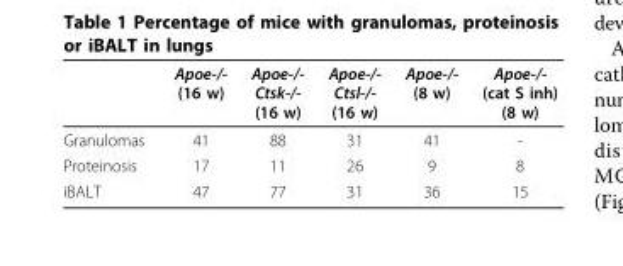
<table><thead><tr><td></td><td>Apoe-/- (16 w)</td><td>Apoe-/- Ctsk-/- (16 w)</td><td>Apoe-/- Ctsl-/- (16 w)</td><td>Apoe-/- (8 w)</td><td>Apoe-/- (cat S inh) (8 w)</td></tr></thead><tbody><tr><td>Granulomas</td><td>41</td><td>88</td><td>31</td><td>41</td><td>-</td></tr><tr><td>Proteinosis</td><td>17</td><td>11</td><td>26</td><td>9</td><td>8</td></tr><tr><td>iBALT</td><td>47</td><td>77</td><td>31</td><td>36</td><td>15</td></tr></tbody></table>